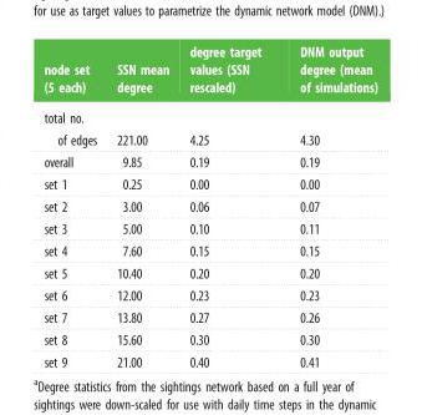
<table><thead><tr><td>node set (5 each)</td><td>SSN mean degree</td><td>degree target values (SSN rescaled)</td><td>DNM output degree (mean of simulations)</td></tr></thead><tbody><tr><td>total no. of edges</td><td>221.00</td><td>4.25</td><td>4.30</td></tr><tr><td>overall</td><td>9.85</td><td>0.19</td><td>0.19</td></tr><tr><td>set 1</td><td>0.25</td><td>0.00</td><td>0.00</td></tr><tr><td>set 2</td><td>3.00</td><td>0.06</td><td>0.07</td></tr><tr><td>set 3</td><td>5.00</td><td>0.10</td><td>0.11</td></tr><tr><td>set 4</td><td>7.60</td><td>0.15</td><td>0.15</td></tr><tr><td>set 5</td><td>10.40</td><td>0.20</td><td>0.20</td></tr><tr><td>set 6</td><td>12.00</td><td>0.23</td><td>0.23</td></tr><tr><td>set 7</td><td>13.80</td><td>0.27</td><td>0.26</td></tr><tr><td>set 8</td><td>15.60</td><td>0.30</td><td>0.30</td></tr><tr><td>set 9</td><td>21.00</td><td>0.40</td><td>0.41</td></tr></tbody></table>